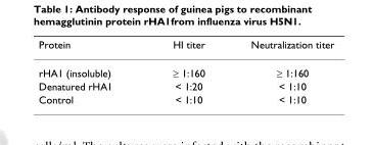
<table><thead><tr><td>Protein</td><td>HI titer</td><td>Neutralization titer</td></tr></thead><tbody><tr><td>rHA1 (insoluble)</td><td>≥ 1:160</td><td>≥ 1:160</td></tr><tr><td>Denatured rHA1</td><td>&lt; 1:20</td><td>&lt; 1:10</td></tr><tr><td>Control</td><td>&lt; 1:10</td><td>&lt; 1:10</td></tr></tbody></table>